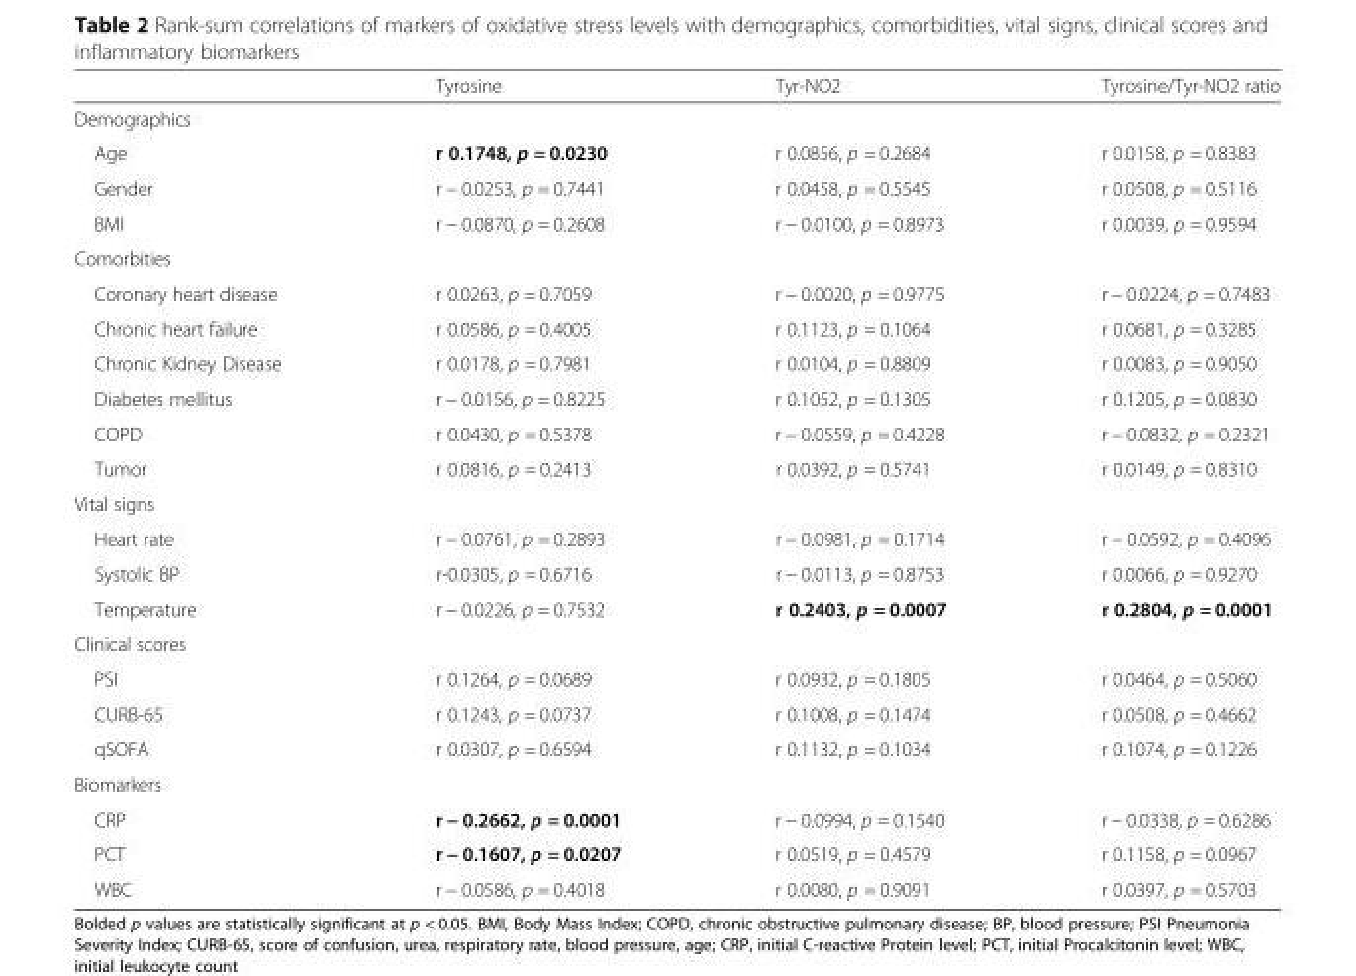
<table><thead><tr><td></td><td>Tyrosine</td><td>Tyr-NO2</td><td>Tyrosine/Tyr-NO2 ratio</td></tr></thead><tbody><tr><td colspan="4">Demographics</td></tr><tr><td>Age</td><td>r 0.1748, p = 0.0230</td><td>r 0.0856, p = 0.2684</td><td>r 0.0158, p = 0.8383</td></tr><tr><td>Gender</td><td>r − 0.0253, p = 0.7441</td><td>r 0.0458, p = 0.5545</td><td>r 0.0508, p = 0.5116</td></tr><tr><td>BMI</td><td>r − 0.0870, p = 0.2608</td><td>r − 0.0100, p = 0.8973</td><td>r 0.0039, p = 0.9594</td></tr><tr><td colspan="4">Comorbities</td></tr><tr><td>Coronary heart disease</td><td>r 0.0263, p = 0.7059</td><td>r − 0.0020, p = 0.9775</td><td>r − 0.0224, p = 0.7483</td></tr><tr><td>Chronic heart failure</td><td>r 0.0586, p = 0.4005</td><td>r 0.1123, p = 0.1064</td><td>r 0.0681, p = 0.3285</td></tr><tr><td>Chronic Kidney Disease</td><td>r 0.0178, p = 0.7981</td><td>r 0.0104, p = 0.8809</td><td>r 0.0083, p = 0.9050</td></tr><tr><td>Diabetes mellitus</td><td>r − 0.0156, p = 0.8225</td><td>r 0.1052, p = 0.1305</td><td>r 0.1205, p = 0.0830</td></tr><tr><td>COPD</td><td>r 0.0430, p = 0.5378</td><td>r − 0.0559, p = 0.4228</td><td>r − 0.0832, p = 0.2321</td></tr><tr><td>Tumor</td><td>r 0.0816, p = 0.2413</td><td>r 0.0392, p = 0.5741</td><td>r 0.0149, p = 0.8310</td></tr><tr><td colspan="4">Vital signs</td></tr><tr><td>Heart rate</td><td>r − 0.0761, p = 0.2893</td><td>r − 0.0981, p = 0.1714</td><td>r − 0.0592, p = 0.4096</td></tr><tr><td>Systolic BP</td><td>r-0.0305, p = 0.6716</td><td>r − 0.0113, p = 0.8753</td><td>r 0.0066, p = 0.9270</td></tr><tr><td>Temperature</td><td>r − 0.0226, p = 0.7532</td><td>r 0.2403, p = 0.0007</td><td>r 0.2804, p = 0.0001</td></tr><tr><td colspan="4">Clinical scores</td></tr><tr><td>PSI</td><td>r 0.1264, p = 0.0689</td><td>r 0.0932, p = 0.1805</td><td>r 0.0464, p = 0.5060</td></tr><tr><td>CURB-65</td><td>r 0.1243, p = 0.0737</td><td>r 0.1008, p = 0.1474</td><td>r 0.0508, p = 0.4662</td></tr><tr><td>qSOFA</td><td>r 0.0307, p = 0.6594</td><td>r 0.1132, p = 0.1034</td><td>r 0.1074, p = 0.1226</td></tr><tr><td colspan="4">Biomarkers</td></tr><tr><td>CRP</td><td>r − 0.2662, p = 0.0001</td><td>r − 0.0994, p = 0.1540</td><td>r − 0.0338, p = 0.6286</td></tr><tr><td>PCT</td><td>r − 0.1607, p = 0.0207</td><td>r 0.0519, p = 0.4579</td><td>r 0.1158, p = 0.0967</td></tr><tr><td>WBC</td><td>r − 0.0586, p = 0.4018</td><td>r 0.0080, p = 0.9091</td><td>r 0.0397, p = 0.5703</td></tr></tbody></table>